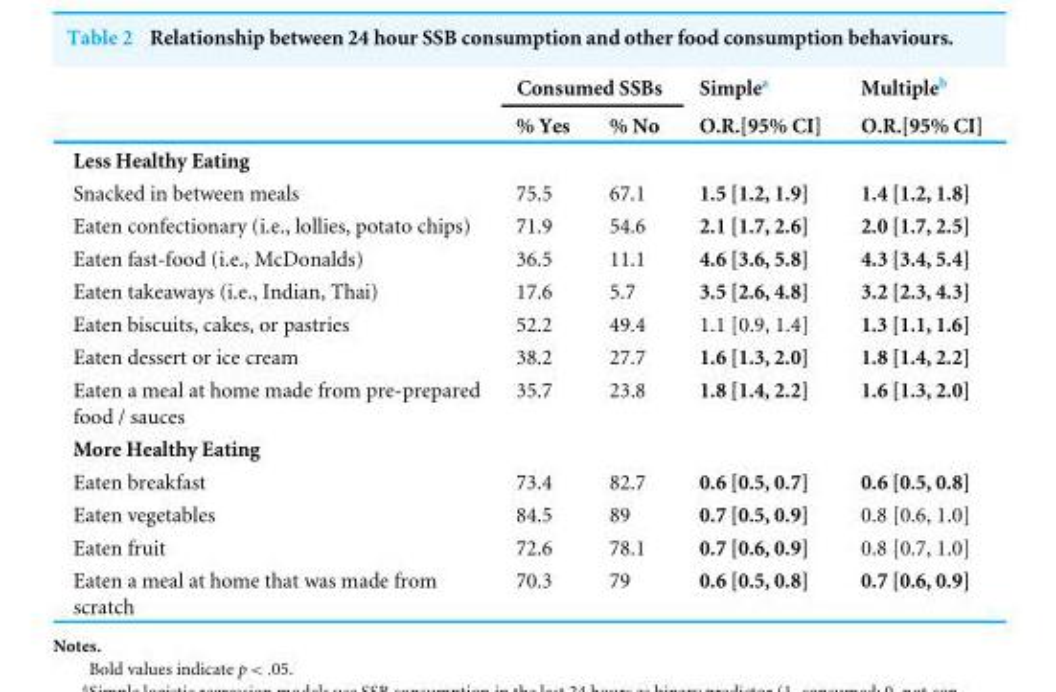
<table><thead><tr><td rowspan="2"></td><td colspan="2">Consumed SSBs</td><td rowspan="2">Simple<sup>a</sup> O.R.[95% CI]</td><td rowspan="2">Multiple<sup>b</sup> O.R.[95% CI]</td></tr><tr><td>% Yes</td><td>% No</td></tr></thead><tbody><tr><td colspan="5">Less Healthy Eating</td></tr><tr><td>Snacked in between meals</td><td>75.5</td><td>67.1</td><td>1.5 [1.2, 1.9]</td><td>1.4 [1.2, 1.8]</td></tr><tr><td>Eaten confectionary (i.e., lollies, potato chips)</td><td>71.9</td><td>54.6</td><td>2.1 [1.7, 2.6]</td><td>2.0 [1.7, 2.5]</td></tr><tr><td>Eaten fast-food (i.e., McDonalds)</td><td>36.5</td><td>11.1</td><td>4.6 [3.6, 5.8]</td><td>4.3 [3.4, 5.4]</td></tr><tr><td>Eaten takeaways (i.e., Indian, Thai)</td><td>17.6</td><td>5.7</td><td>3.5 [2.6, 4.8]</td><td>3.2 [2.3, 4.3]</td></tr><tr><td>Eaten biscuits, cakes, or pastries</td><td>52.2</td><td>49.4</td><td>1.1 [0.9, 1.4]</td><td>1.3 [1.1, 1.6]</td></tr><tr><td>Eaten dessert or ice cream</td><td>38.2</td><td>27.7</td><td>1.6 [1.3, 2.0]</td><td>1.8 [1.4, 2.2]</td></tr><tr><td>Eaten a meal at home made from pre-prepared food / sauces</td><td>35.7</td><td>23.8</td><td>1.8 [1.4, 2.2]</td><td>1.6 [1.3, 2.0]</td></tr><tr><td colspan="5">More Healthy Eating</td></tr><tr><td>Eaten breakfast</td><td>73.4</td><td>82.7</td><td>0.6 [0.5, 0.7]</td><td>0.6 [0.5, 0.8]</td></tr><tr><td>Eaten vegetables</td><td>84.5</td><td>89</td><td>0.7 [0.5, 0.9]</td><td>0.8 [0.6, 1.0]</td></tr><tr><td>Eaten fruit</td><td>72.6</td><td>78.1</td><td>0.7 [0.6, 0.9]</td><td>0.8 [0.7, 1.0]</td></tr><tr><td>Eaten a meal at home that was made from scratch</td><td>70.3</td><td>79</td><td>0.6 [0.5, 0.8]</td><td>0.7 [0.6, 0.9]</td></tr></tbody></table>